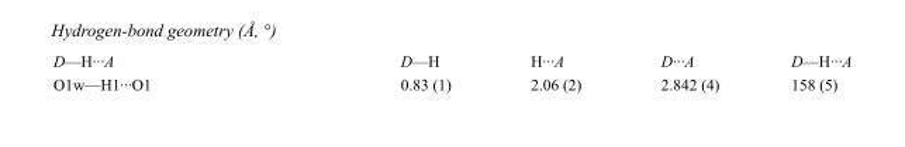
<table><tbody><tr><td>D—H···A</td><td>D—H</td><td>H···A</td><td>D···A</td><td>D—H···A</td></tr><tr><td>O1w—H1···O1</td><td>0.83 (1)</td><td>2.06 (2)</td><td>2.842 (4)</td><td>158 (5)</td></tr></tbody></table>